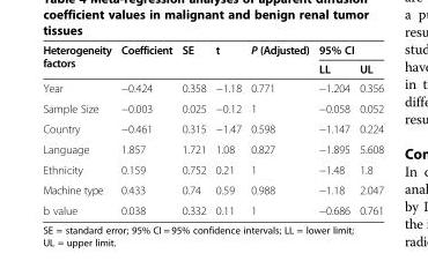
<table><thead><tr><td rowspan="2">Heterogeneity factors</td><td rowspan="2">Coefficient</td><td rowspan="2">SE</td><td rowspan="2">t</td><td rowspan="2">P (Adjusted)</td><td colspan="2">95% CI</td></tr><tr><td>LL</td><td>UL</td></tr></thead><tbody><tr><td>Year</td><td>−0.424</td><td>0.358</td><td>−1.18</td><td>0.771</td><td>−1.204</td><td>0.356</td></tr><tr><td>Sample Size</td><td>−0.003</td><td>0.025</td><td>−0.12</td><td>1</td><td>−0.058</td><td>0.052</td></tr><tr><td>Country</td><td>−0.461</td><td>0.315</td><td>−1.47</td><td>0.598</td><td>−1.147</td><td>0.224</td></tr><tr><td>Language</td><td>1.857</td><td>1.721</td><td>1.08</td><td>0.827</td><td>−1.895</td><td>5.608</td></tr><tr><td>Ethnicity</td><td>0.159</td><td>0.752</td><td>0.21</td><td>1</td><td>−1.48</td><td>1.8</td></tr><tr><td>Machine type</td><td>0.433</td><td>0.74</td><td>0.59</td><td>0.988</td><td>−1.18</td><td>2.047</td></tr><tr><td>b value</td><td>0.038</td><td>0.332</td><td>0.11</td><td>1</td><td>−0.686</td><td>0.761</td></tr></tbody></table>